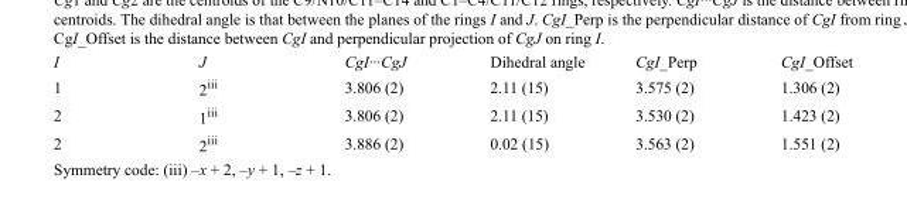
<table><tbody><tr><td>I</td><td>J</td><td>CgI···CgJ</td><td>Dihedral angle</td><td>CgI_Perp</td><td>CgI_Offset</td></tr><tr><td>1</td><td>2<sup>iii</sup></td><td>3.806 (2)</td><td>2.11 (15)</td><td>3.575 (2)</td><td>1.306 (2)</td></tr><tr><td>2</td><td>1<sup>iii</sup></td><td>3.806 (2)</td><td>2.11 (15)</td><td>3.530 (2)</td><td>1.423 (2)</td></tr><tr><td>2</td><td>2<sup>iii</sup></td><td>3.886 (2)</td><td>0.02 (15)</td><td>3.563 (2)</td><td>1.551 (2)</td></tr></tbody></table>